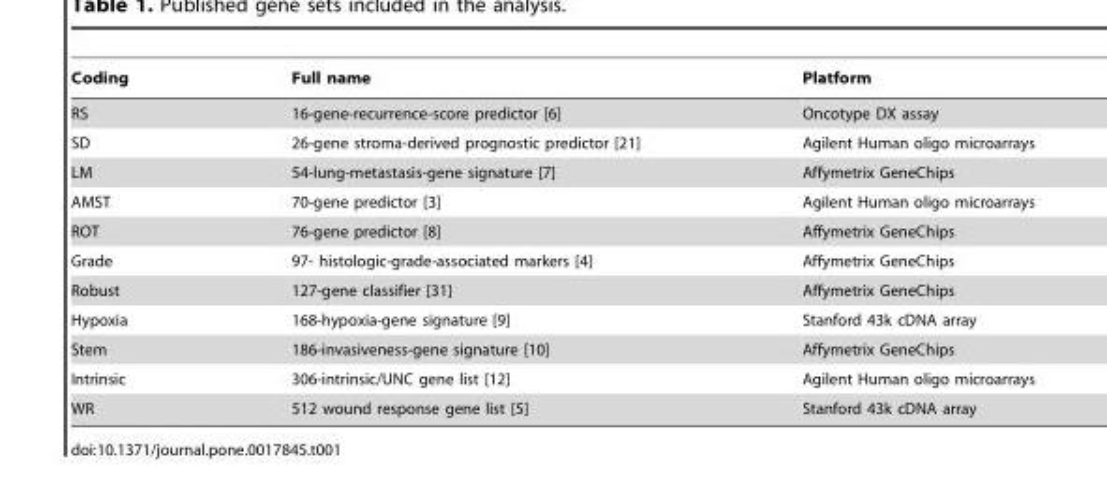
<table><thead><tr><td>Coding</td><td>Full name</td><td>Platform</td></tr></thead><tbody><tr><td>RS</td><td>16-gene-recurrence-score predictor [6]</td><td>Oncotype DX assay</td></tr><tr><td>SD</td><td>26-gene stroma-derived prognostic predictor [21]</td><td>Agilent Human oligo microarrays</td></tr><tr><td>LM</td><td>54-lung-metastasis-gene signature [7]</td><td>Affymetrix GeneChips</td></tr><tr><td>AMST</td><td>70-gene predictor [3]</td><td>Agilent Human oligo microarrays</td></tr><tr><td>ROT</td><td>76-gene predictor [8]</td><td>Affymetrix GeneChips</td></tr><tr><td>Grade</td><td>97- histologic-grade-associated markers [4]</td><td>Affymetrix GeneChips</td></tr><tr><td>Robust</td><td>127-gene classifier [31]</td><td>Affymetrix GeneChips</td></tr><tr><td>Hypoxia</td><td>168-hypoxia-gene signature [9]</td><td>Stanford 43k cDNA array</td></tr><tr><td>Stem</td><td>186-invasiveness-gene signature [10]</td><td>Affymetrix GeneChips</td></tr><tr><td>Intrinsic</td><td>306-intrinsic/UNC gene list [12]</td><td>Agilent Human oligo microarrays</td></tr><tr><td>WR</td><td>512 wound response gene list [5]</td><td>Stanford 43k cDNA array</td></tr></tbody></table>